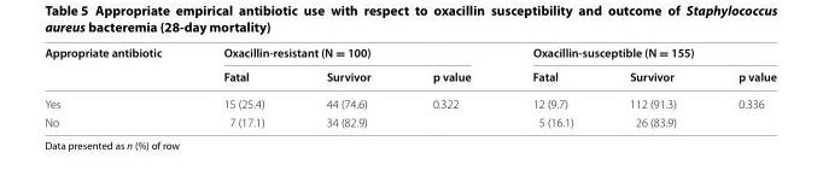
<table><thead><tr><td rowspan="2">Appropriate antibiotic</td><td colspan="3">Oxacillin‑resistant (N = 100)</td><td colspan="3">Oxacillin‑susceptible (N = 155)</td></tr><tr><td>Fatal</td><td>Survivor</td><td>p value</td><td>Fatal</td><td>Survivor</td><td>p value</td></tr></thead><tbody><tr><td>Yes</td><td>15 (25.4)</td><td>44 (74.6)</td><td>0.322</td><td>12 (9.7)</td><td>112 (91.3)</td><td>0.336</td></tr><tr><td>No</td><td>7 (17.1)</td><td>34 (82.9)</td><td></td><td>5 (16.1)</td><td>26 (83.9)</td><td></td></tr></tbody></table>